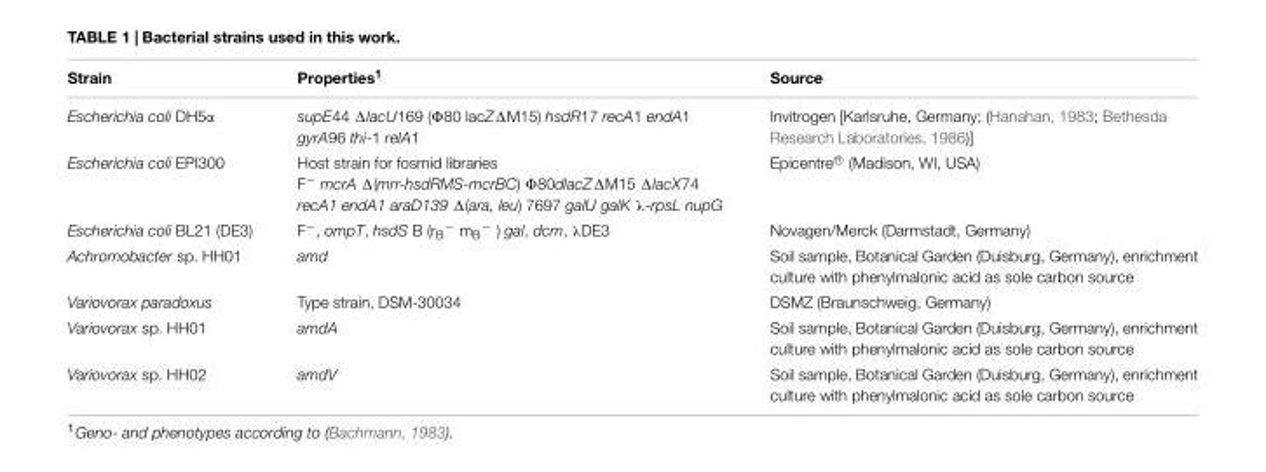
<table><thead><tr><td>Strain</td><td>Properties<sup>1</sup></td><td>Source</td></tr></thead><tbody><tr><td>Escherichia coli DH5α</td><td>supE44 ΔlacU169 (Φ80 lacZΔM15) hsdR17 recA1 endA1 gyrA96 thi-1 relA1</td><td>Invitrogen [Karlsruhe, Germany; (Hanahan, 1983; Bethesda Research Laboratories, 1986)]</td></tr><tr><td>Escherichia coli EPI300</td><td>Host strain for fosmid libraries F<sup>−</sup> mcrA Δ(mrr-hsdRMS-mcrBC) Φ80dlacZΔM15 ΔlacX74 recA1 endA1 araD139 Δ(ara, leu) 7697 galU galK λ-rpsL nupG</td><td>Epicentre R⃝ (Madison, WI, USA)</td></tr><tr><td>Escherichia coli BL21 (DE3)</td><td>F<sup>−</sup>, ompT, hsdS B (r<sub>B</sub><sup>−</sup> m<sub>B</sub><sup>−</sup> ) gal, dcm, λDE3</td><td>Novagen/Merck (Darmstadt, Germany)</td></tr><tr><td>Achromobacter sp. HH01</td><td>amd</td><td>Soil sample, Botanical Garden (Duisburg, Germany), enrichment culture with phenylmalonic acid as sole carbon source</td></tr><tr><td>Variovorax paradoxus</td><td>Type strain, DSM-30034</td><td>DSMZ (Braunschweig, Germany)</td></tr><tr><td>Variovorax sp. HH01</td><td>amdA</td><td>Soil sample, Botanical Garden (Duisburg, Germany), enrichment culture with phenylmalonic acid as sole carbon source</td></tr><tr><td>Variovorax sp. HH02</td><td>amdV</td><td>Soil sample, Botanical Garden (Duisburg, Germany), enrichment culture with phenylmalonic acid as sole carbon source</td></tr></tbody></table>